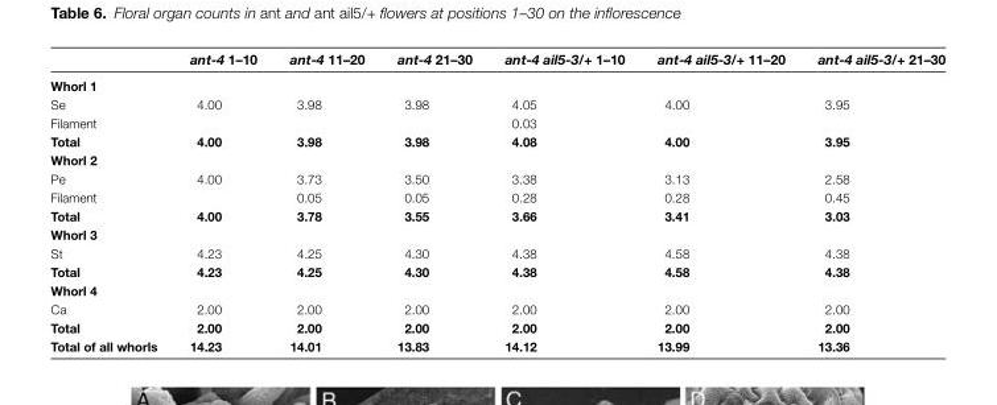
<table><thead><tr><td></td><td>ant-4 1–10</td><td>ant-4 11–20</td><td>ant-4 21–30</td><td>ant-4 ail5-3/+ 1–10</td><td>ant-4 ail5-3/+ 11–20</td><td>ant-4 ail5-3/+ 21–30</td></tr></thead><tbody><tr><td colspan="7">Whorl 1</td></tr><tr><td>Se</td><td>4.00</td><td>3.98</td><td>3.98</td><td>4.05</td><td>4.00</td><td>3.95</td></tr><tr><td>Filament</td><td></td><td></td><td></td><td>0.03</td><td></td><td></td></tr><tr><td>Total</td><td>4.00</td><td>3.98</td><td>3.98</td><td>4.08</td><td>4.00</td><td>3.95</td></tr><tr><td colspan="7">Whorl 2</td></tr><tr><td>Pe</td><td>4.00</td><td>3.73</td><td>3.50</td><td>3.38</td><td>3.13</td><td>2.58</td></tr><tr><td>Filament</td><td></td><td>0.05</td><td>0.05</td><td>0.28</td><td>0.28</td><td>0.45</td></tr><tr><td>Total</td><td>4.00</td><td>3.78</td><td>3.55</td><td>3.66</td><td>3.41</td><td>3.03</td></tr><tr><td colspan="7">Whorl 3</td></tr><tr><td>St</td><td>4.23</td><td>4.25</td><td>4.30</td><td>4.38</td><td>4.58</td><td>4.38</td></tr><tr><td>Total</td><td>4.23</td><td>4.25</td><td>4.30</td><td>4.38</td><td>4.58</td><td>4.38</td></tr><tr><td colspan="7">Whorl 4</td></tr><tr><td>Ca</td><td>2.00</td><td>2.00</td><td>2.00</td><td>2.00</td><td>2.00</td><td>2.00</td></tr><tr><td>Total</td><td>2.00</td><td>2.00</td><td>2.00</td><td>2.00</td><td>2.00</td><td>2.00</td></tr><tr><td>Total of all whorls</td><td>14.23</td><td>14.01</td><td>13.83</td><td>14.12</td><td>13.99</td><td>13.36</td></tr></tbody></table>